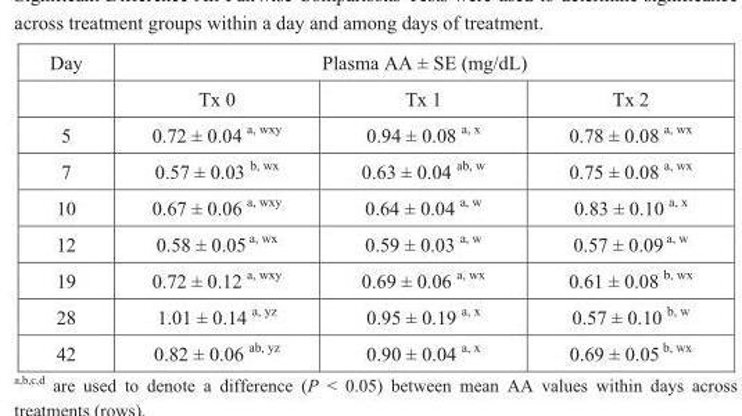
<table><thead><tr><td rowspan="2">Day</td><td colspan="3">Plasma AA ± SE (mg/dL)</td></tr><tr><td>Tx 0</td><td>Tx 1</td><td>Tx 2</td></tr></thead><tbody><tr><td>5</td><td>0.72 ± 0.04 <sup>a, wxy</sup></td><td>0.94 ± 0.08 <sup>a, x</sup></td><td>0.78 ± 0.08 <sup>a, wx</sup></td></tr><tr><td>7</td><td>0.57 ± 0.03 <sup>b, wx</sup></td><td>0.63 ± 0.04 <sup>ab, w</sup></td><td>0.75 ± 0.08 <sup>a, wx</sup></td></tr><tr><td>10</td><td>0.67 ± 0.06 <sup>a, wxy</sup></td><td>0.64 ± 0.04 <sup>a, w</sup></td><td>0.83 ± 0.10 <sup>a, x</sup></td></tr><tr><td>12</td><td>0.58 ± 0.05 <sup>a, wx</sup></td><td>0.59 ± 0.03 <sup>a, w</sup></td><td>0.57 ± 0.09 <sup>a, w</sup></td></tr><tr><td>19</td><td>0.72 ± 0.12 <sup>a, wxy</sup></td><td>0.69 ± 0.06 <sup>a, wx</sup></td><td>0.61 ± 0.08 <sup>b, wx</sup></td></tr><tr><td>28</td><td>1.01 ± 0.14 <sup>a, yz</sup></td><td>0.95 ± 0.19 <sup>a, x</sup></td><td>0.57 ± 0.10 <sup>b, w</sup></td></tr><tr><td>42</td><td>0.82 ± 0.06 <sup>ab, yz</sup></td><td>0.90 ± 0.04 <sup>a, x</sup></td><td>0.69 ± 0.05 <sup>b, wx</sup></td></tr></tbody></table>